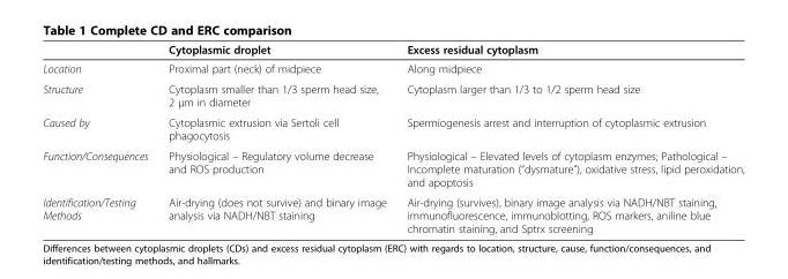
<table><thead><tr><td></td><td>Cytoplasmic droplet</td><td>Excess residual cytoplasm</td></tr></thead><tbody><tr><td>Location</td><td>Proximal part (neck) of midpiece</td><td>Along midpiece</td></tr><tr><td>Structure</td><td>Cytoplasm smaller than 1/3 sperm head size, 2 μm in diameter</td><td>Cytoplasm larger than 1/3 to 1/2 sperm head size</td></tr><tr><td>Caused by</td><td>Cytoplasmic extrusion via Sertoli cell phagocytosis</td><td>Spermiogenesis arrest and interruption of cytoplasmic extrusion</td></tr><tr><td>Function/Consequences</td><td>Physiological – Regulatory volume decrease and ROS production</td><td>Physiological – Elevated levels of cytoplasm enzymes; Pathological – Incomplete maturation (“dysmature”), oxidative stress, lipid peroxidation, and apoptosis</td></tr><tr><td>Identification/Testing Methods</td><td>Air-drying (does not survive) and binary image analysis via NADH/NBT staining</td><td>Air-drying (survives), binary image analysis via NADH/NBT staining, immunofluorescence, immunoblotting, ROS markers, aniline blue chromatin staining, and Sptrx screening</td></tr></tbody></table>